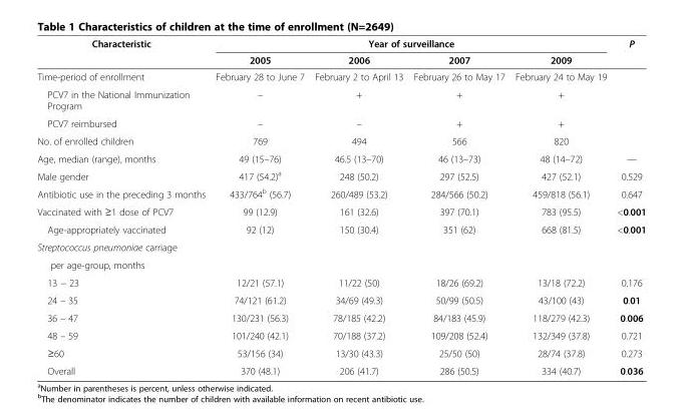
<table><thead><tr><td rowspan="2">Characteristic</td><td colspan="4">Year of surveillance</td><td rowspan="2">P</td></tr><tr><td>2005</td><td>2006</td><td>2007</td><td>2009</td></tr></thead><tbody><tr><td>Time-period of enrollment</td><td>February 28 to June 7</td><td>February 2 to April 13</td><td>February 26 to May 17</td><td>February 24 to May 19</td><td></td></tr><tr><td>PCV7 in the National Immunization Program</td><td>–</td><td>+</td><td>+</td><td>+</td><td></td></tr><tr><td>PCV7 reimbursed</td><td>–</td><td>–</td><td>+</td><td>+</td><td></td></tr><tr><td>No. of enrolled children</td><td>769</td><td>494</td><td>566</td><td>820</td><td></td></tr><tr><td>Age, median (range), months</td><td>49 (15–76)</td><td>46.5 (13–70)</td><td>46 (13–73)</td><td>48 (14–72)</td><td>—</td></tr><tr><td>Male gender</td><td>417 (54.2)<sup>a</sup></td><td>248 (50.2)</td><td>297 (52.5)</td><td>427 (52.1)</td><td>0.529</td></tr><tr><td>Antibiotic use in the preceding 3 months</td><td>433/764<sup>b</sup> (56.7)</td><td>260/489 (53.2)</td><td>284/566 (50.2)</td><td>459/818 (56.1)</td><td>0.647</td></tr><tr><td>Vaccinated with ≥1 dose of PCV7</td><td>99 (12.9)</td><td>161 (32.6)</td><td>397 (70.1)</td><td>783 (95.5)</td><td>&lt;0.001</td></tr><tr><td>Age-appropriately vaccinated</td><td>92 (12)</td><td>150 (30.4)</td><td>351 (62)</td><td>668 (81.5)</td><td>&lt;0.001</td></tr><tr><td colspan="6">Streptococcus pneumoniae carriage</td></tr><tr><td colspan="6">per age-group, months</td></tr><tr><td>13 − 23</td><td>12/21 (57.1)</td><td>11/22 (50)</td><td>18/26 (69.2)</td><td>13/18 (72.2)</td><td>0.176</td></tr><tr><td>24 – 35</td><td>74/121 (61.2)</td><td>34/69 (49.3)</td><td>50/99 (50.5)</td><td>43/100 (43)</td><td>0.01</td></tr><tr><td>36 – 47</td><td>130/231 (56.3)</td><td>78/185 (42.2)</td><td>84/183 (45.9)</td><td>118/279 (42.3)</td><td>0.006</td></tr><tr><td>48 – 59</td><td>101/240 (42.1)</td><td>70/188 (37.2)</td><td>109/208 (52.4)</td><td>132/349 (37.8)</td><td>0.721</td></tr><tr><td>≥60</td><td>53/156 (34)</td><td>13/30 (43.3)</td><td>25/50 (50)</td><td>28/74 (37.8)</td><td>0.273</td></tr><tr><td>Overall</td><td>370 (48.1)</td><td>206 (41.7)</td><td>286 (50.5)</td><td>334 (40.7)</td><td>0.036</td></tr></tbody></table>